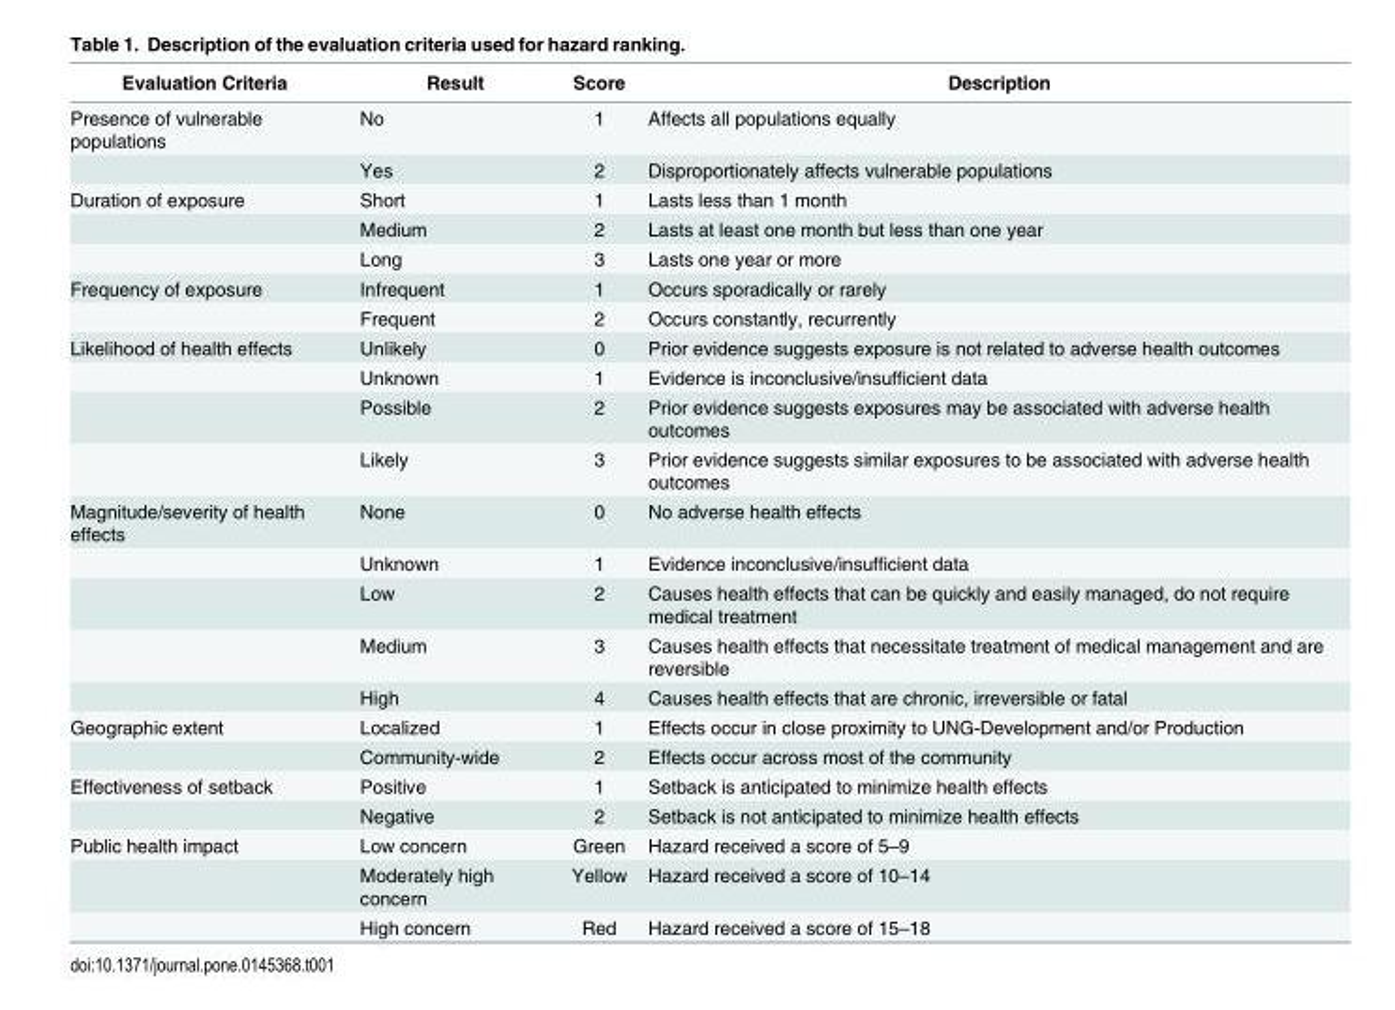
<table><thead><tr><td>Evaluation Criteria</td><td>Result</td><td>Score</td><td>Description</td></tr></thead><tbody><tr><td rowspan="2">Presence of vulnerable populations</td><td>No</td><td>1</td><td>Affects all populations equally</td></tr><tr><td>Yes</td><td>2</td><td>Disproportionately affects vulnerable populations</td></tr><tr><td rowspan="3">Duration of exposure</td><td>Short</td><td>1</td><td>Lasts less than 1 month</td></tr><tr><td>Medium</td><td>2</td><td>Lasts at least one month but less than one year</td></tr><tr><td>Long</td><td>3</td><td>Lasts one year or more</td></tr><tr><td rowspan="2">Frequency of exposure</td><td>Infrequent</td><td>1</td><td>Occurs sporadically or rarely</td></tr><tr><td>Frequent</td><td>2</td><td>Occurs constantly, recurrently</td></tr><tr><td rowspan="4">Likelihood of health effects</td><td>Unlikely</td><td>0</td><td>Prior evidence suggests exposure is not related to adverse health outcomes</td></tr><tr><td>Unknown</td><td>1</td><td>Evidence is inconclusive/insufficient data</td></tr><tr><td>Possible</td><td>2</td><td>Prior evidence suggests exposures may be associated with adverse health outcomes</td></tr><tr><td>Likely</td><td>3</td><td>Prior evidence suggests similar exposures to be associated with adverse health outcomes</td></tr><tr><td rowspan="5">Magnitude/severity of health effects</td><td>None</td><td>0</td><td>No adverse health effects</td></tr><tr><td>Unknown</td><td>1</td><td>Evidence inconclusive/insufficient data</td></tr><tr><td>Low</td><td>2</td><td>Causes health effects that can be quickly and easily managed, do not require medical treatment</td></tr><tr><td>Medium</td><td>3</td><td>Causes health effects that necessitate treatment of medical management and are reversible</td></tr><tr><td>High</td><td>4</td><td>Causes health effects that are chronic, irreversible or fatal</td></tr><tr><td rowspan="2">Geographic extent</td><td>Localized</td><td>1</td><td>Effects occur in close proximity to UNG-Development and/or Production</td></tr><tr><td>Community-wide</td><td>2</td><td>Effects occur across most of the community</td></tr><tr><td rowspan="2">Effectiveness of setback</td><td>Positive</td><td>1</td><td>Setback is anticipated to minimize health effects</td></tr><tr><td>Negative</td><td>2</td><td>Setback is not anticipated to minimize health effects</td></tr><tr><td rowspan="3">Public health impact</td><td>Low concern</td><td>Green</td><td>Hazard received a score of 5–9</td></tr><tr><td>Moderately high concern</td><td>Yellow</td><td>Hazard received a score of 10–14</td></tr><tr><td>High concern</td><td>Red</td><td>Hazard received a score of 15–18</td></tr></tbody></table>